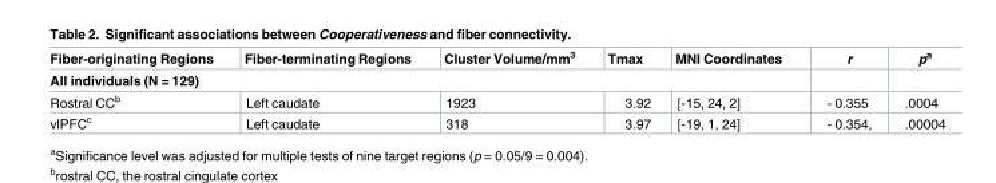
<table><thead><tr><td>Fiber-originating Regions</td><td>Fiber-terminating Regions</td><td>Cluster Volume/mm<sup>3</sup></td><td>Tmax</td><td>MNI Coordinates</td><td rowspan="2">r</td><td rowspan="2">p<sup>a</sup></td></tr><tr><td colspan="5">All individuals (N = 129)</td></tr></thead><tbody><tr><td>Rostral CC<sup>b</sup></td><td>Left caudate</td><td>1923</td><td>3.92</td><td>[-15, 24, 2]</td><td>- 0.355</td><td>.0004</td></tr><tr><td>vlPFC<sup>c</sup></td><td>Left caudate</td><td>318</td><td>3.97</td><td>[-19, 1, 24]</td><td>- 0.354,</td><td>.00004</td></tr></tbody></table>